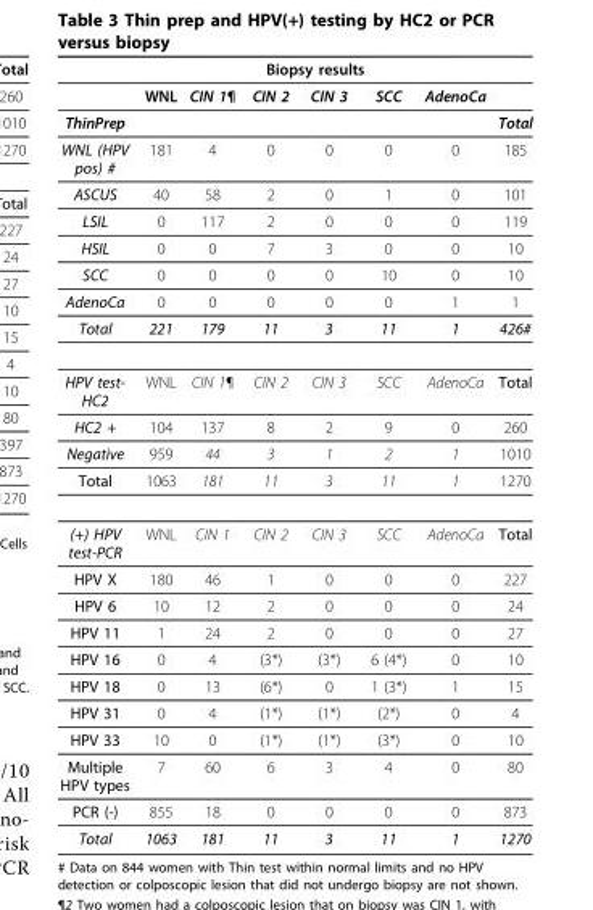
<table><thead><tr><td rowspan="2"></td><td colspan="6">Biopsy results</td><td rowspan="2"></td></tr><tr><td>WNL</td><td>CIN 1¶</td><td>CIN 2</td><td>CIN 3</td><td>SCC</td><td>AdenoCa</td></tr></thead><tbody><tr><td>ThinPrep</td><td></td><td></td><td></td><td></td><td></td><td></td><td>Total</td></tr><tr><td>WNL (HPV pos) #</td><td>181</td><td>4</td><td>0</td><td>0</td><td>0</td><td>0</td><td>185</td></tr><tr><td>ASCUS</td><td>40</td><td>58</td><td>2</td><td>0</td><td>1</td><td>0</td><td>101</td></tr><tr><td>LSIL</td><td>0</td><td>117</td><td>2</td><td>0</td><td>0</td><td>0</td><td>119</td></tr><tr><td>HSIL</td><td>0</td><td>0</td><td>7</td><td>3</td><td>0</td><td>0</td><td>10</td></tr><tr><td>SCC</td><td>0</td><td>0</td><td>0</td><td>0</td><td>10</td><td>0</td><td>10</td></tr><tr><td>AdenoCa</td><td>0</td><td>0</td><td>0</td><td>0</td><td>0</td><td>1</td><td>1</td></tr><tr><td>Total</td><td>221</td><td>179</td><td>11</td><td>3</td><td>11</td><td>1</td><td>426#</td></tr><tr><td>HPV test- HC2</td><td>WNL</td><td>CIN 1¶</td><td>CIN 2</td><td>CIN 3</td><td>SCC</td><td>AdenoCa</td><td>Total</td></tr><tr><td>HC2 +</td><td>104</td><td>137</td><td>8</td><td>2</td><td>9</td><td>0</td><td>260</td></tr><tr><td>Negative</td><td>959</td><td>44</td><td>3</td><td>1</td><td>2</td><td>1</td><td>1010</td></tr><tr><td>Total</td><td>1063</td><td>181</td><td>11</td><td>3</td><td>11</td><td>1</td><td>1270</td></tr><tr><td>(+) HPV test-PCR</td><td>WNL</td><td>CIN 1</td><td>CIN 2</td><td>CIN 3</td><td>SCC</td><td>AdenoCa</td><td>Total</td></tr><tr><td>HPV X</td><td>180</td><td>46</td><td>1</td><td>0</td><td>0</td><td>0</td><td>227</td></tr><tr><td>HPV 6</td><td>10</td><td>12</td><td>2</td><td>0</td><td>0</td><td>0</td><td>24</td></tr><tr><td>HPV 11</td><td>1</td><td>24</td><td>2</td><td>0</td><td>0</td><td>0</td><td>27</td></tr><tr><td>HPV 16</td><td>0</td><td>4</td><td>(3*)</td><td>(3*)</td><td>6 (4*)</td><td>0</td><td>10</td></tr><tr><td>HPV 18</td><td>0</td><td>13</td><td>(6*)</td><td>0</td><td>1 (3*)</td><td>1</td><td>15</td></tr><tr><td>HPV 31</td><td>0</td><td>4</td><td>(1*)</td><td>(1*)</td><td>(2*)</td><td>0</td><td>4</td></tr><tr><td>HPV 33</td><td>10</td><td>0</td><td>(1*)</td><td>(1*)</td><td>(3*)</td><td>0</td><td>10</td></tr><tr><td>Multiple HPV types</td><td>7</td><td>60</td><td>6</td><td>3</td><td>4</td><td>0</td><td>80</td></tr><tr><td>PCR (-)</td><td>855</td><td>18</td><td>0</td><td>0</td><td>0</td><td>0</td><td>873</td></tr><tr><td>Total</td><td>1063</td><td>181</td><td>11</td><td>3</td><td>11</td><td>1</td><td>1270</td></tr></tbody></table>